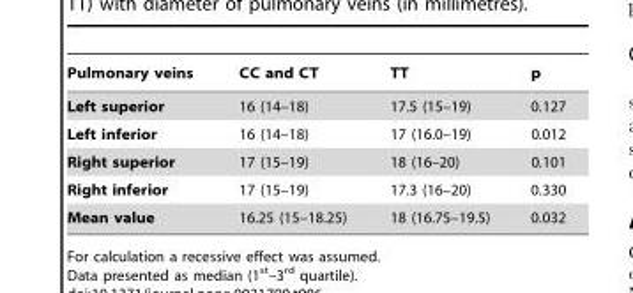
<table><thead><tr><td>Pulmonary veins</td><td>CC and CT</td><td>TT</td><td>p</td></tr></thead><tbody><tr><td>Left superior</td><td>16 (14–18)</td><td>17.5 (15–19)</td><td>0.127</td></tr><tr><td>Left inferior</td><td>16 (14–18)</td><td>17 (16.0–19)</td><td>0.012</td></tr><tr><td>Right superior</td><td>17 (15–19)</td><td>18 (16–20)</td><td>0.101</td></tr><tr><td>Right inferior</td><td>17 (15–19)</td><td>17.3 (16–20)</td><td>0.330</td></tr><tr><td>Mean value</td><td>16.25 (15–18.25)</td><td>18 (16.75–19.5)</td><td>0.032</td></tr></tbody></table>